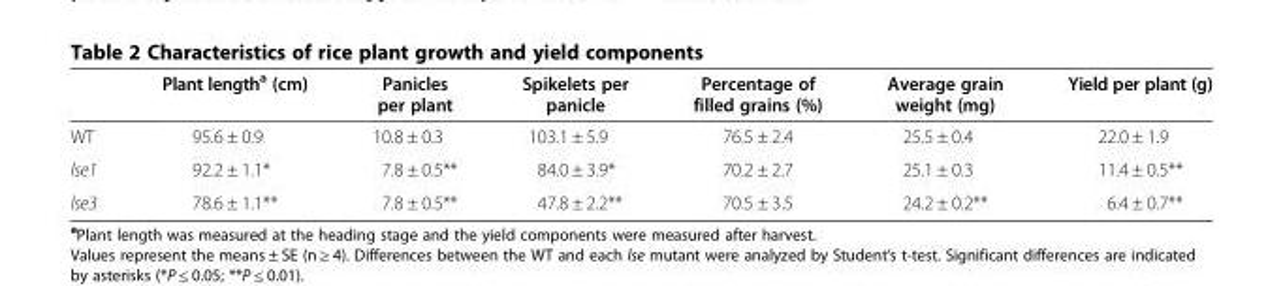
<table><thead><tr><td></td><td>Plant length<sup>a</sup> (cm)</td><td>Panicles per plant</td><td>Spikelets per panicle</td><td>Percentage of filled grains (%)</td><td>Average grain weight (mg)</td><td>Yield per plant (g)</td></tr></thead><tbody><tr><td>WT</td><td>95.6 ± 0.9</td><td>10.8 ± 0.3</td><td>103.1 ± 5.9</td><td>76.5 ± 2.4</td><td>25.5 ± 0.4</td><td>22.0 ± 1.9</td></tr><tr><td>lse1</td><td>92.2 ± 1.1*</td><td>7.8 ± 0.5**</td><td>84.0 ± 3.9*</td><td>70.2 ± 2.7</td><td>25.1 ± 0.3</td><td>11.4 ± 0.5**</td></tr><tr><td>lse3</td><td>78.6 ± 1.1**</td><td>7.8 ± 0.5**</td><td>47.8 ± 2.2**</td><td>70.5 ± 3.5</td><td>24.2 ± 0.2**</td><td>6.4 ± 0.7**</td></tr></tbody></table>